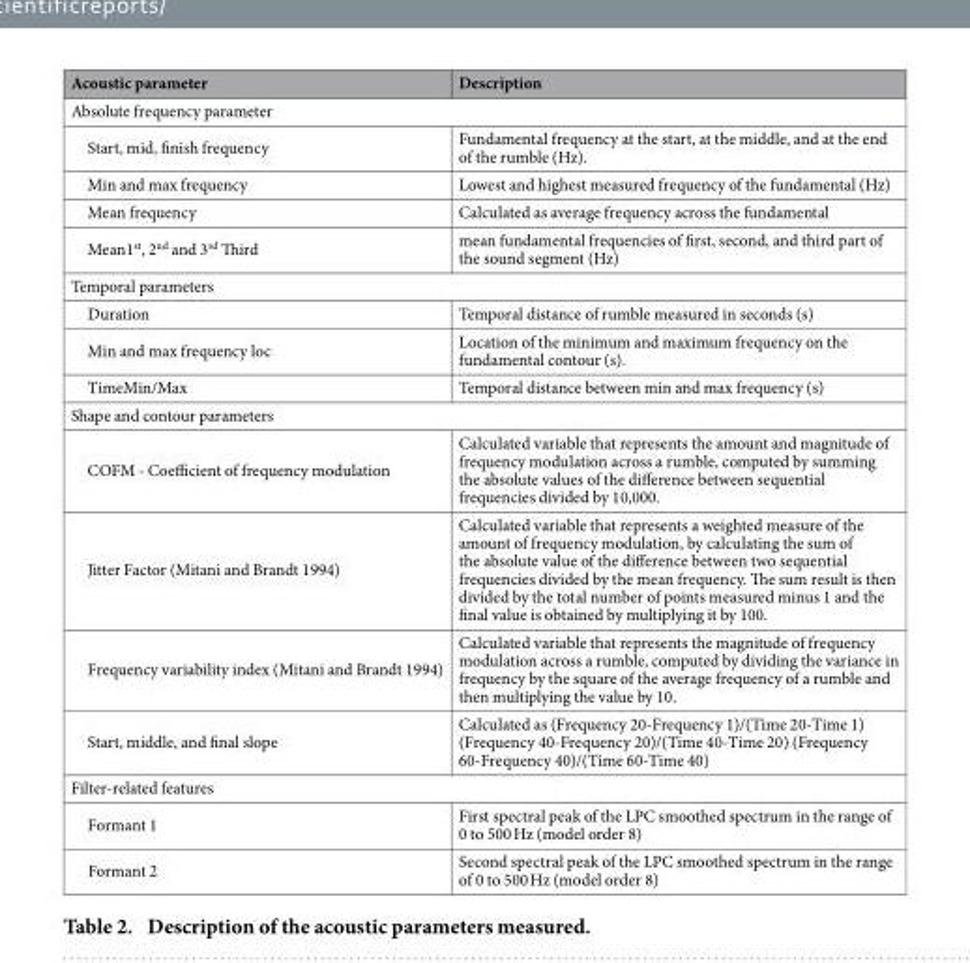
<table><thead><tr><td>Acoustic parameter</td><td>Description</td></tr></thead><tbody><tr><td colspan="2">Absolute frequency parameter</td></tr><tr><td>Start, mid, finish frequency</td><td>Fundamental frequency at the start, at the middle, and at the end of the rumble (Hz).</td></tr><tr><td>Min and max frequency</td><td>Lowest and highest measured frequency of the fundamental (Hz)</td></tr><tr><td>Mean frequency</td><td>Calculated as average frequency across the fundamental</td></tr><tr><td>Mean1<sup>st</sup>, 2<sup>nd</sup> and 3<sup>rd</sup> Third</td><td>mean fundamental frequencies of first, second, and third part of the sound segment (Hz)</td></tr><tr><td colspan="2">Temporal parameters</td></tr><tr><td>Duration</td><td>Temporal distance of rumble measured in seconds (s)</td></tr><tr><td>Min and max frequency loc</td><td>Location of the minimum and maximum frequency on the fundamental contour (s).</td></tr><tr><td>TimeMin/Max</td><td>Temporal distance between min and max frequency (s)</td></tr><tr><td colspan="2">Shape and contour parameters</td></tr><tr><td>COFM - Coefficient of frequency modulation</td><td>Calculated variable that represents the amount and magnitude of frequency modulation across a rumble, computed by summing the absolute values of the difference between sequential frequencies divided by 10,000.</td></tr><tr><td>Jitter Factor (Mitani and Brandt 1994)</td><td>Calculated variable that represents a weighted measure of the amount of frequency modulation, by calculating the sum of the absolute value of the difference between two sequential frequencies divided by the mean frequency. The sum result is then divided by the total number of points measured minus 1 and the final value is obtained by multiplying it by 100.</td></tr><tr><td>Frequency variability index (Mitani and Brandt 1994)</td><td>Calculated variable that represents the magnitude of frequency modulation across a rumble, computed by dividing the variance in frequency by the square of the average frequency of a rumble and then multiplying the value by 10.</td></tr><tr><td>Start, middle, and final slope</td><td>Calculated as (Frequency 20-Frequency 1)/(Time 20-Time 1) (Frequency 40-Frequency 20)/(Time 40-Time 20) (Frequency 60-Frequency 40)/(Time 60-Time 40)</td></tr><tr><td colspan="2">Filter-related features</td></tr><tr><td>Formant 1</td><td>First spectral peak of the LPC smoothed spectrum in the range of 0 to 500 Hz (model order 8)</td></tr><tr><td>Formant 2</td><td>Second spectral peak of the LPC smoothed spectrum in the range of 0 to 500 Hz (model order 8)</td></tr></tbody></table>